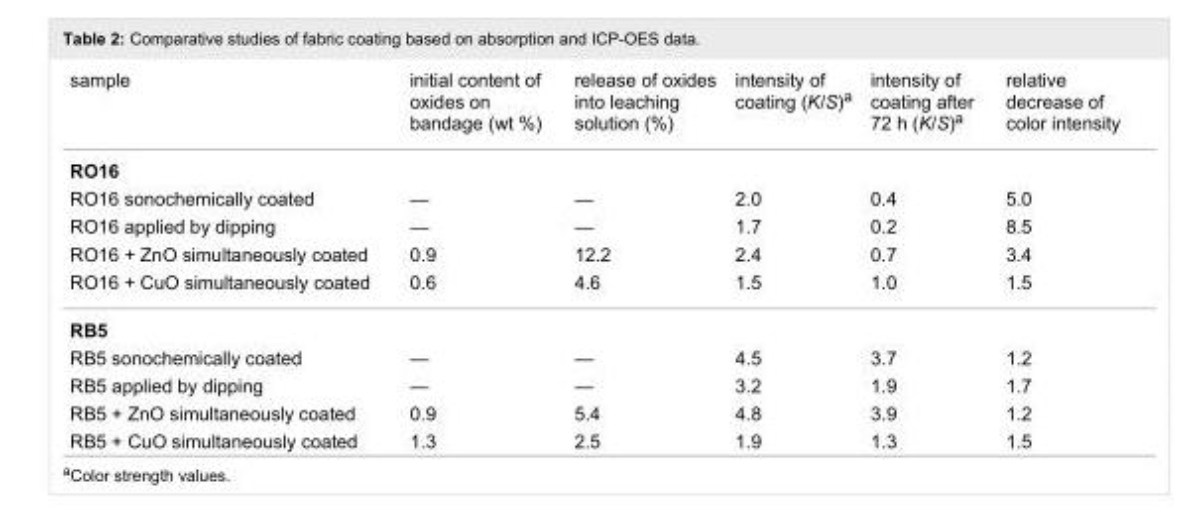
<table><tbody><tr><td>sample</td><td>initial content of oxides on bandage (wt %)</td><td>release of oxides into leaching solution (%)</td><td>intensity of coating (K/S)<sup>a</sup></td><td>intensity of coating after 72 h (K/S)<sup>a</sup></td><td>relative decrease of color intensity</td></tr><tr><td colspan="6">RO16</td></tr><tr><td>RO16 sonochemically coated</td><td>—</td><td>—</td><td>2.0</td><td>0.4</td><td>5.0</td></tr><tr><td>RO16 applied by dipping</td><td>—</td><td>—</td><td>1.7</td><td>0.2</td><td>8.5</td></tr><tr><td>RO16 + ZnO simultaneously coated</td><td>0.9</td><td>12.2</td><td>2.4</td><td>0.7</td><td>3.4</td></tr><tr><td>RO16 + CuO simultaneously coated</td><td>0.6</td><td>4.6</td><td>1.5</td><td>1.0</td><td>1.5</td></tr><tr><td colspan="6">RB5</td></tr><tr><td>RB5 sonochemically coated</td><td>—</td><td>—</td><td>4.5</td><td>3.7</td><td>1.2</td></tr><tr><td>RB5 applied by dipping</td><td>—</td><td>—</td><td>3.2</td><td>1.9</td><td>1.7</td></tr><tr><td>RB5 + ZnO simultaneously coated</td><td>0.9</td><td>5.4</td><td>4.8</td><td>3.9</td><td>1.2</td></tr><tr><td>RB5 + CuO simultaneously coated</td><td>1.3</td><td>2.5</td><td>1.9</td><td>1.3</td><td>1.5</td></tr></tbody></table>